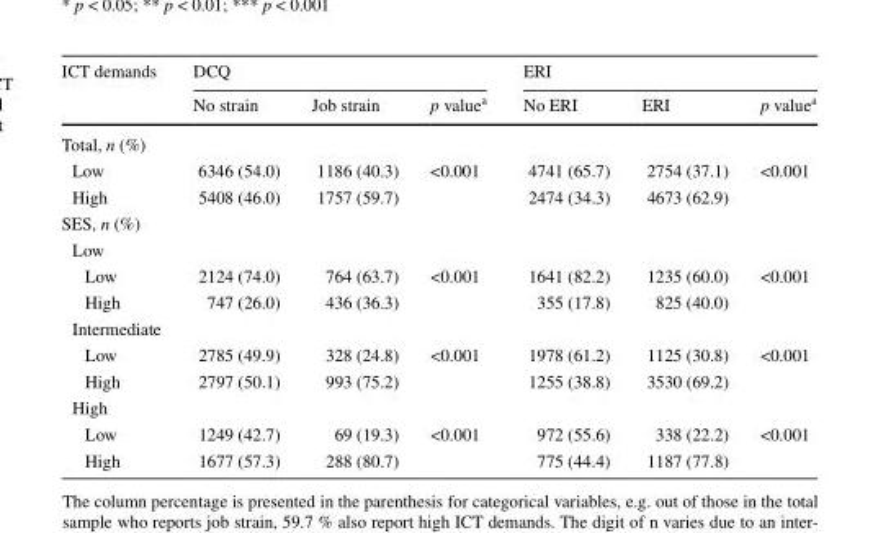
<table><thead><tr><td rowspan="2">ICT demands</td><td colspan="3">DCQ</td><td colspan="3">ERI</td></tr><tr><td>No strain</td><td>Job strain</td><td>p value<sup>a</sup></td><td>No ERI</td><td>ERI</td><td>p value<sup>a</sup></td></tr></thead><tbody><tr><td colspan="7">Total, n (%)</td></tr><tr><td>Low</td><td>6346 (54.0)</td><td>1186 (40.3)</td><td>&lt;0.001</td><td>4741 (65.7)</td><td>2754 (37.1)</td><td>&lt;0.001</td></tr><tr><td>High</td><td>5408 (46.0)</td><td>1757 (59.7)</td><td></td><td>2474 (34.3)</td><td>4673 (62.9)</td><td></td></tr><tr><td colspan="7">SES, n (%)</td></tr><tr><td colspan="7">Low</td></tr><tr><td>Low</td><td>2124 (74.0)</td><td>764 (63.7)</td><td>&lt;0.001</td><td>1641 (82.2)</td><td>1235 (60.0)</td><td>&lt;0.001</td></tr><tr><td>High</td><td>747 (26.0)</td><td>436 (36.3)</td><td></td><td>355 (17.8)</td><td>825 (40.0)</td><td></td></tr><tr><td colspan="7">Intermediate</td></tr><tr><td>Low</td><td>2785 (49.9)</td><td>328 (24.8)</td><td>&lt;0.001</td><td>1978 (61.2)</td><td>1125 (30.8)</td><td>&lt;0.001</td></tr><tr><td>High</td><td>2797 (50.1)</td><td>993 (75.2)</td><td></td><td>1255 (38.8)</td><td>3530 (69.2)</td><td></td></tr><tr><td colspan="7">High</td></tr><tr><td>Low</td><td>1249 (42.7)</td><td>69 (19.3)</td><td>&lt;0.001</td><td>972 (55.6)</td><td>338 (22.2)</td><td>&lt;0.001</td></tr><tr><td>High</td><td>1677 (57.3)</td><td>288 (80.7)</td><td></td><td>775 (44.4)</td><td>1187 (77.8)</td><td></td></tr></tbody></table>